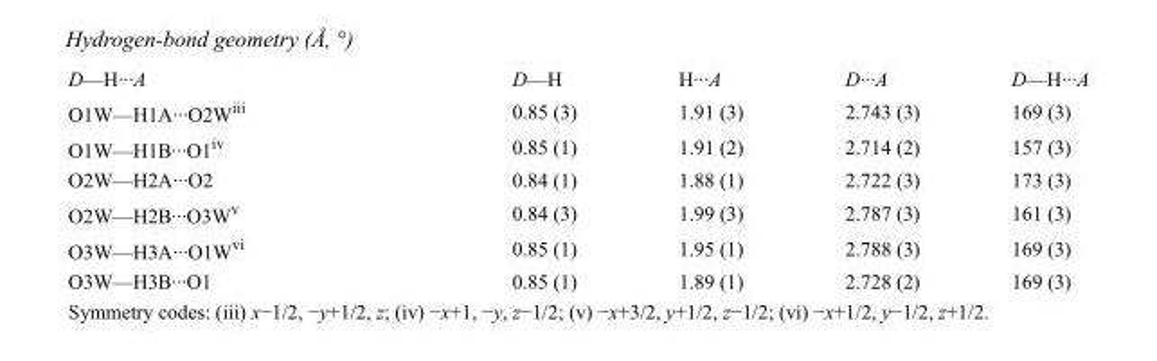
<table><tbody><tr><td>D—H···A</td><td>D—H</td><td>H···A</td><td>D···A</td><td>D—H···A</td></tr><tr><td>O1W—H1A···O2W<sup>iii</sup></td><td>0.85 (3)</td><td>1.91 (3)</td><td>2.743 (3)</td><td>169 (3)</td></tr><tr><td>O1W—H1B···O1<sup>iv</sup></td><td>0.85 (1)</td><td>1.91 (2)</td><td>2.714 (2)</td><td>157 (3)</td></tr><tr><td>O2W—H2A···O2</td><td>0.84 (1)</td><td>1.88 (1)</td><td>2.722 (3)</td><td>173 (3)</td></tr><tr><td>O2W—H2B···O3W<sup>v</sup></td><td>0.84 (3)</td><td>1.99 (3)</td><td>2.787 (3)</td><td>161 (3)</td></tr><tr><td>O3W—H3A···O1W<sup>vi</sup></td><td>0.85 (1)</td><td>1.95 (1)</td><td>2.788 (3)</td><td>169 (3)</td></tr><tr><td>O3W—H3B···O1</td><td>0.85 (1)</td><td>1.89 (1)</td><td>2.728 (2)</td><td>169 (3)</td></tr></tbody></table>